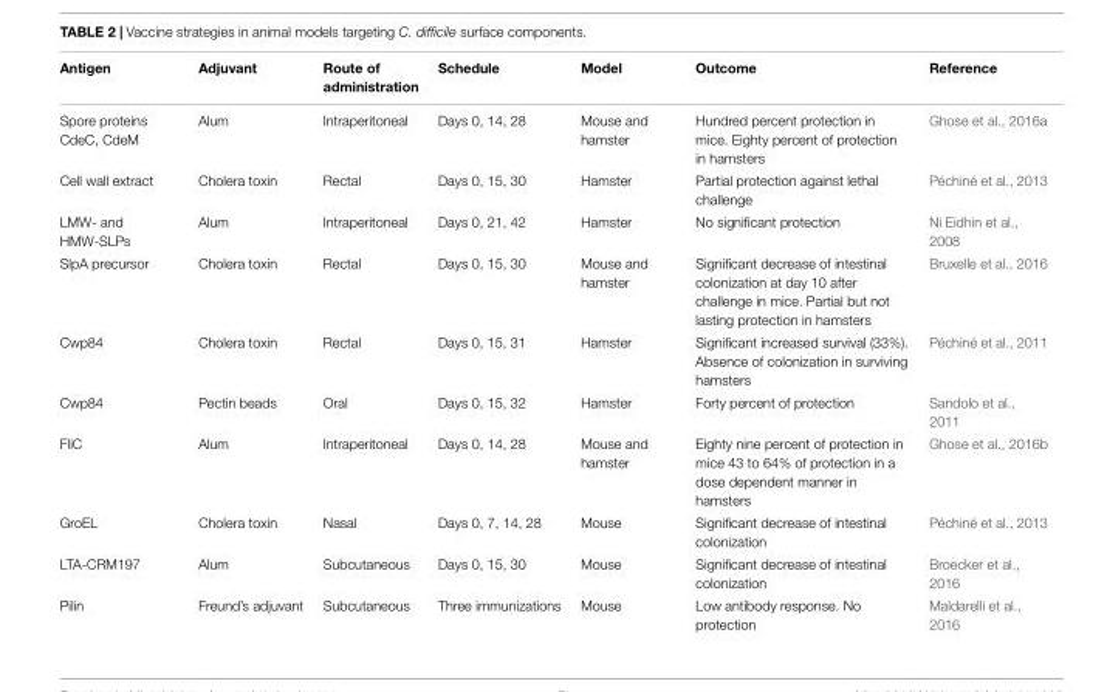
<table><thead><tr><td>Antigen</td><td>Adjuvant</td><td>Route of administration</td><td>Schedule</td><td>Model</td><td>Outcome</td><td>Reference</td></tr></thead><tbody><tr><td>Spore proteins CdeC, CdeM</td><td>Alum</td><td>Intraperitoneal</td><td>Days 0, 14, 28</td><td>Mouse and hamster</td><td>Hundred percent protection in mice. Eighty percent of protection in hamsters</td><td>Ghose et al., 2016a</td></tr><tr><td>Cell wall extract</td><td>Cholera toxin</td><td>Rectal</td><td>Days 0, 15, 30</td><td>Hamster</td><td>Partial protection against lethal challenge</td><td>Péchiné et al., 2013</td></tr><tr><td>LMW- and HMW-SLPs</td><td>Alum</td><td>Intraperitoneal</td><td>Days 0, 21, 42</td><td>Hamster</td><td>No significant protection</td><td>Ni Eidhin et al., 2008</td></tr><tr><td>SlpA precursor</td><td>Cholera toxin</td><td>Rectal</td><td>Days 0, 15, 30</td><td>Mouse and hamster</td><td>Significant decrease of intestinal colonization at day 10 after challenge in mice. Partial but not lasting protection in hamsters</td><td>Bruxelle et al., 2016</td></tr><tr><td>Cwp84</td><td>Cholera toxin</td><td>Rectal</td><td>Days 0, 15, 31</td><td>Hamster</td><td>Significant increased survival (33%). Absence of colonization in surviving hamsters</td><td>Péchiné et al., 2011</td></tr><tr><td>Cwp84</td><td>Pectin beads</td><td>Oral</td><td>Days 0, 15, 32</td><td>Hamster</td><td>Forty percent of protection</td><td>Sandolo et al., 2011</td></tr><tr><td>FliC</td><td>Alum</td><td>Intraperitoneal</td><td>Days 0, 14, 28</td><td>Mouse and hamster</td><td>Eighty nine percent of protection in mice 43 to 64% of protection in a dose dependent manner in hamsters</td><td>Ghose et al., 2016b</td></tr><tr><td>GroEL</td><td>Cholera toxin</td><td>Nasal</td><td>Days 0, 7, 14, 28</td><td>Mouse</td><td>Significant decrease of intestinal colonization</td><td>Péchiné et al., 2013</td></tr><tr><td>LTA-CRM197</td><td>Alum</td><td>Subcutaneous</td><td>Days 0, 15, 30</td><td>Mouse</td><td>Significant decrease of intestinal colonization</td><td>Broecker et al., 2016</td></tr><tr><td>Pilin</td><td>Freund’s adjuvant</td><td>Subcutaneous</td><td>Three immunizations</td><td>Mouse</td><td>Low antibody response. No protection</td><td>Maldarelli et al., 2016</td></tr></tbody></table>